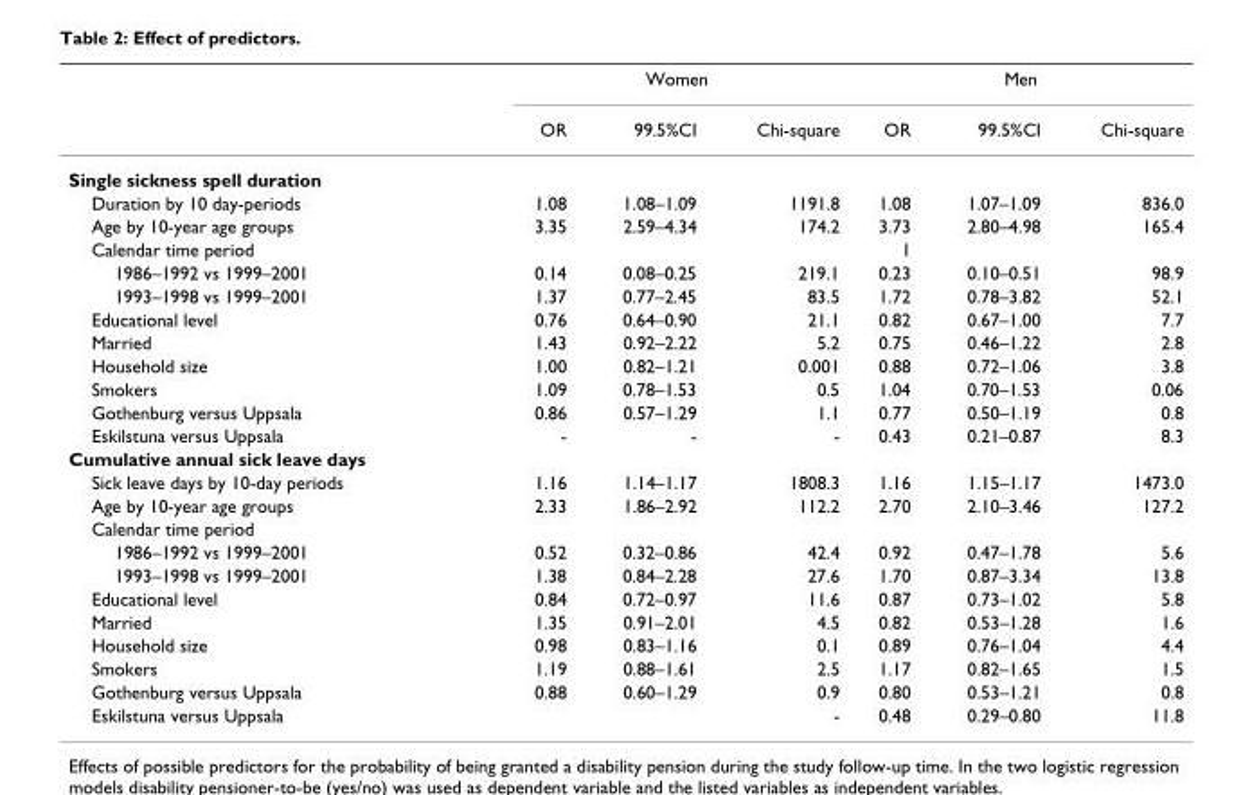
<table><thead><tr><td rowspan="2"></td><td colspan="3">Women</td><td colspan="3">Men</td></tr><tr><td>OR</td><td>99.5%CI</td><td>Chi-square</td><td>OR</td><td>99.5%CI</td><td>Chi-square</td></tr></thead><tbody><tr><td colspan="7">Single sickness spell duration</td></tr><tr><td>Duration by 10 day-periods</td><td>1.08</td><td>1.08–1.09</td><td>1191.8</td><td>1.08</td><td>1.07–1.09</td><td>836.0</td></tr><tr><td>Age by 10-year age groups</td><td>3.35</td><td>2.59–4.34</td><td>174.2</td><td>3.73</td><td>2.80–4.98</td><td>165.4</td></tr><tr><td>Calendar time period</td><td></td><td></td><td></td><td>1</td><td></td><td></td></tr><tr><td>1986–1992 vs 1999–2001</td><td>0.14</td><td>0.08–0.25</td><td>219.1</td><td>0.23</td><td>0.10–0.51</td><td>98.9</td></tr><tr><td>1993–1998 vs 1999–2001</td><td>1.37</td><td>0.77–2.45</td><td>83.5</td><td>1.72</td><td>0.78–3.82</td><td>52.1</td></tr><tr><td>Educational level</td><td>0.76</td><td>0.64–0.90</td><td>21.1</td><td>0.82</td><td>0.67–1.00</td><td>7.7</td></tr><tr><td>Married</td><td>1.43</td><td>0.92–2.22</td><td>5.2</td><td>0.75</td><td>0.46–1.22</td><td>2.8</td></tr><tr><td>Household size</td><td>1.00</td><td>0.82–1.21</td><td>0.001</td><td>0.88</td><td>0.72–1.06</td><td>3.8</td></tr><tr><td>Smokers</td><td>1.09</td><td>0.78–1.53</td><td>0.5</td><td>1.04</td><td>0.70–1.53</td><td>0.06</td></tr><tr><td>Gothenburg versus Uppsala</td><td>0.86</td><td>0.57–1.29</td><td>1.1</td><td>0.77</td><td>0.50–1.19</td><td>0.8</td></tr><tr><td>Eskilstuna versus Uppsala</td><td>-</td><td>-</td><td>-</td><td>0.43</td><td>0.21–0.87</td><td>8.3</td></tr><tr><td colspan="7">Cumulative annual sick leave days</td></tr><tr><td>Sick leave days by 10-day periods</td><td>1.16</td><td>1.14–1.17</td><td>1808.3</td><td>1.16</td><td>1.15–1.17</td><td>1473.0</td></tr><tr><td>Age by 10-year age groups</td><td>2.33</td><td>1.86–2.92</td><td>112.2</td><td>2.70</td><td>2.10–3.46</td><td>127.2</td></tr><tr><td colspan="7">Calendar time period</td></tr><tr><td>1986–1992 vs 1999–2001</td><td>0.52</td><td>0.32–0.86</td><td>42.4</td><td>0.92</td><td>0.47–1.78</td><td>5.6</td></tr><tr><td>1993–1998 vs 1999–2001</td><td>1.38</td><td>0.84–2.28</td><td>27.6</td><td>1.70</td><td>0.87–3.34</td><td>13.8</td></tr><tr><td>Educational level</td><td>0.84</td><td>0.72–0.97</td><td>11.6</td><td>0.87</td><td>0.73–1.02</td><td>5.8</td></tr><tr><td>Married</td><td>1.35</td><td>0.91–2.01</td><td>4.5</td><td>0.82</td><td>0.53–1.28</td><td>1.6</td></tr><tr><td>Household size</td><td>0.98</td><td>0.83–1.16</td><td>0.1</td><td>0.89</td><td>0.76–1.04</td><td>4.4</td></tr><tr><td>Smokers</td><td>1.19</td><td>0.88–1.61</td><td>2.5</td><td>1.17</td><td>0.82–1.65</td><td>1.5</td></tr><tr><td>Gothenburg versus Uppsala</td><td>0.88</td><td>0.60–1.29</td><td>0.9</td><td>0.80</td><td>0.53–1.21</td><td>0.8</td></tr><tr><td>Eskilstuna versus Uppsala</td><td></td><td></td><td>-</td><td>0.48</td><td>0.29–0.80</td><td>11.8</td></tr></tbody></table>